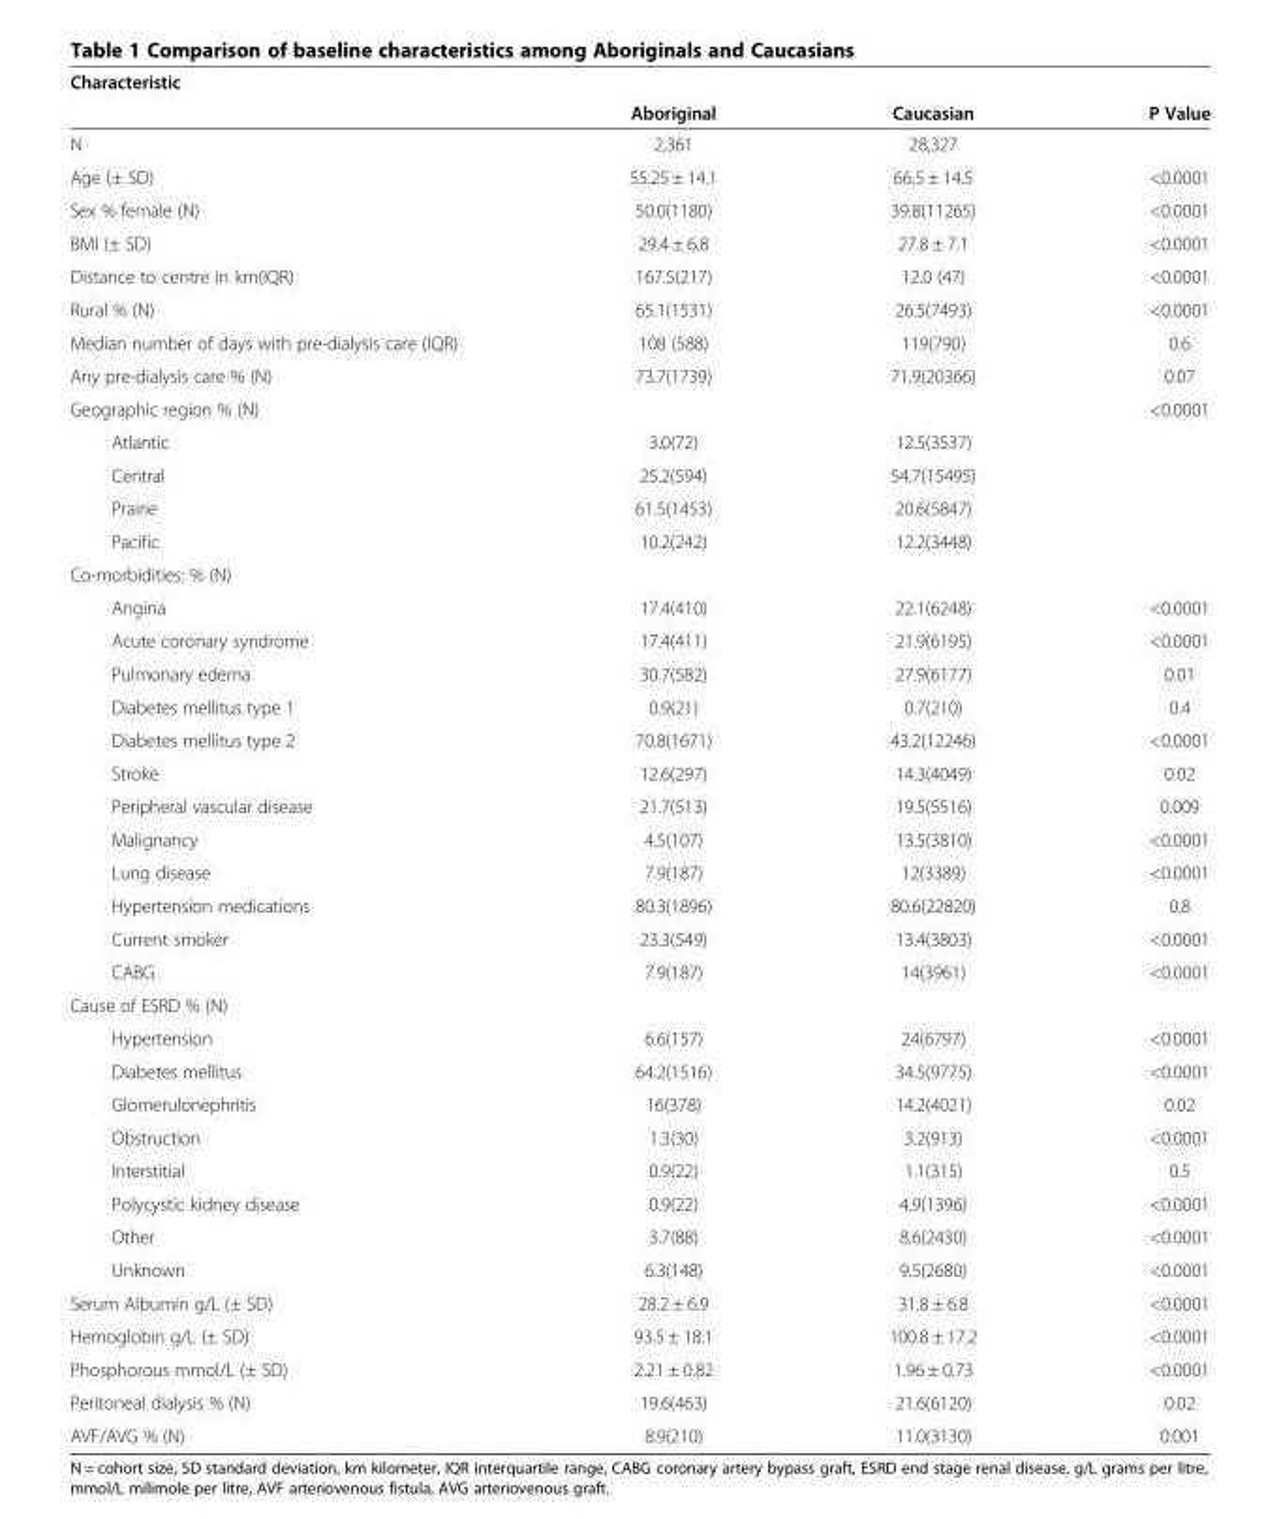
<table><thead><tr><td rowspan="2">Characteristic</td><td rowspan="2">Aboriginal</td><td rowspan="2">Caucasian</td><td rowspan="2">P Value</td></tr><tr></tr></thead><tbody><tr><td>N</td><td>2,361</td><td>28,327</td><td></td></tr><tr><td>Age (± SD)</td><td>55.25 ± 14.1</td><td>66.5 ± 14.5</td><td>&lt;0.0001</td></tr><tr><td>Sex % female (N)</td><td>50.0(1180)</td><td>39.8(11265)</td><td>&lt;0.0001</td></tr><tr><td>BMI (± SD)</td><td>29.4 ± 6.8</td><td>27.8 ± 7.1</td><td>&lt;0.0001</td></tr><tr><td>Distance to centre in km(IQR)</td><td>167.5(217)</td><td>12.0 (47)</td><td>&lt;0.0001</td></tr><tr><td>Rural % (N)</td><td>65.1(1531)</td><td>26.5(7493)</td><td>&lt;0.0001</td></tr><tr><td>Median number of days with pre-dialysis care (IQR)</td><td>108 (588)</td><td>119(790)</td><td>0.6</td></tr><tr><td>Any pre-dialysis care % (N)</td><td>73.7(1739)</td><td>71.9(20366)</td><td>0.07</td></tr><tr><td>Geographic region % (N)</td><td></td><td></td><td>&lt;0.0001</td></tr><tr><td>Atlantic</td><td>3.0(72)</td><td>12.5(3537)</td><td></td></tr><tr><td>Central</td><td>25.2(594)</td><td>54.7(15495)</td><td></td></tr><tr><td>Prairie</td><td>61.5(1453)</td><td>20.6(5847)</td><td></td></tr><tr><td>Pacific</td><td>10.2(242)</td><td>12.2(3448)</td><td></td></tr><tr><td colspan="4">Co-morbidities: % (N)</td></tr><tr><td>Angina</td><td>17.4(410)</td><td>22.1(6248)</td><td>&lt;0.0001</td></tr><tr><td>Acute coronary syndrome</td><td>17.4(411)</td><td>21.9(6195)</td><td>&lt;0.0001</td></tr><tr><td>Pulmonary edema</td><td>30.7(582)</td><td>27.9(6177)</td><td>0.01</td></tr><tr><td>Diabetes mellitus type 1</td><td>0.9(21)</td><td>0.7(210)</td><td>0.4</td></tr><tr><td>Diabetes mellitus type 2</td><td>70.8(1671)</td><td>43.2(12246)</td><td>&lt;0.0001</td></tr><tr><td>Stroke</td><td>12.6(297)</td><td>14.3(4049)</td><td>0.02</td></tr><tr><td>Peripheral vascular disease</td><td>21.7(513)</td><td>19.5(5516)</td><td>0.009</td></tr><tr><td>Malignancy</td><td>4.5(107)</td><td>13.5(3810)</td><td>&lt;0.0001</td></tr><tr><td>Lung disease</td><td>7.9(187)</td><td>12(3389)</td><td>&lt;0.0001</td></tr><tr><td>Hypertension medications</td><td>80.3(1896)</td><td>80.6(22820)</td><td>0.8</td></tr><tr><td>Current smoker</td><td>23.3(549)</td><td>13.4(3803)</td><td>&lt;0.0001</td></tr><tr><td>CABG</td><td>7.9(187)</td><td>14(3961)</td><td>&lt;0.0001</td></tr><tr><td colspan="4">Cause of ESRD % (N)</td></tr><tr><td>Hypertension</td><td>6.6(157)</td><td>24(6797)</td><td>&lt;0.0001</td></tr><tr><td>Diabetes mellitus</td><td>64.2(1516)</td><td>34.5(9775)</td><td>&lt;0.0001</td></tr><tr><td>Glomerulonephritis</td><td>16(378)</td><td>14.2(4021)</td><td>0.02</td></tr><tr><td>Obstruction</td><td>1.3(30)</td><td>3.2(913)</td><td>&lt;0.0001</td></tr><tr><td>Interstitial</td><td>0.9(22)</td><td>1.1(315)</td><td>0.5</td></tr><tr><td>Polycystic kidney disease</td><td>0.9(22)</td><td>4.9(1396)</td><td>&lt;0.0001</td></tr><tr><td>Other</td><td>3.7(88)</td><td>8.6(2430)</td><td>&lt;0.0001</td></tr><tr><td>Unknown</td><td>6.3(148)</td><td>9.5(2680)</td><td>&lt;0.0001</td></tr><tr><td>Serum Albumin g/L (± SD)</td><td>28.2 ± 6.9</td><td>31.8 ± 6.8</td><td>&lt;0.0001</td></tr><tr><td>Hemoglobin g/L (± SD)</td><td>93.5 ± 18.1</td><td>100.8 ± 17.2</td><td>&lt;0.0001</td></tr><tr><td>Phosphorous mmol/L (± SD)</td><td>2.21 ± 0.82</td><td>1.96 ± 0.73</td><td>&lt;0.0001</td></tr><tr><td>Peritoneal dialysis % (N)</td><td>19.6(463)</td><td>21.6(6120)</td><td>0.02</td></tr><tr><td>AVF/AVG % (N)</td><td>8.9(210)</td><td>11.0(3130)</td><td>0.001</td></tr></tbody></table>